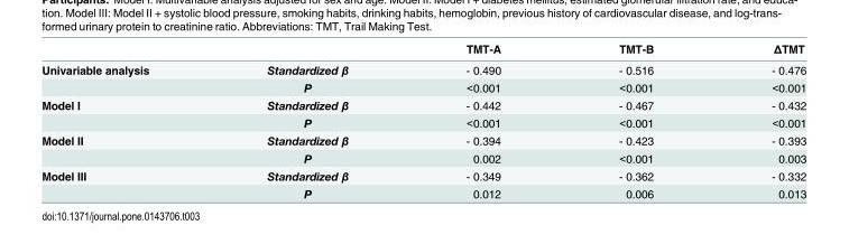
<table><thead><tr><td></td><td></td><td>TMT-A</td><td>TMT-B</td><td>ΔTMT</td></tr></thead><tbody><tr><td rowspan="2">Univariable analysis</td><td>Standardized β</td><td>- 0.490</td><td>- 0.516</td><td>- 0.476</td></tr><tr><td>P</td><td>&lt;0.001</td><td>&lt;0.001</td><td>&lt;0.001</td></tr><tr><td rowspan="2">Model I</td><td>Standardized β</td><td>- 0.442</td><td>- 0.467</td><td>- 0.432</td></tr><tr><td>P</td><td>&lt;0.001</td><td>&lt;0.001</td><td>&lt;0.001</td></tr><tr><td rowspan="2">Model II</td><td>Standardized β</td><td>- 0.394</td><td>- 0.423</td><td>- 0.393</td></tr><tr><td>P</td><td>0.002</td><td>&lt;0.001</td><td>0.003</td></tr><tr><td rowspan="2">Model III</td><td>Standardized β</td><td>- 0.349</td><td>- 0.362</td><td>- 0.332</td></tr><tr><td>P</td><td>0.012</td><td>0.006</td><td>0.013</td></tr></tbody></table>